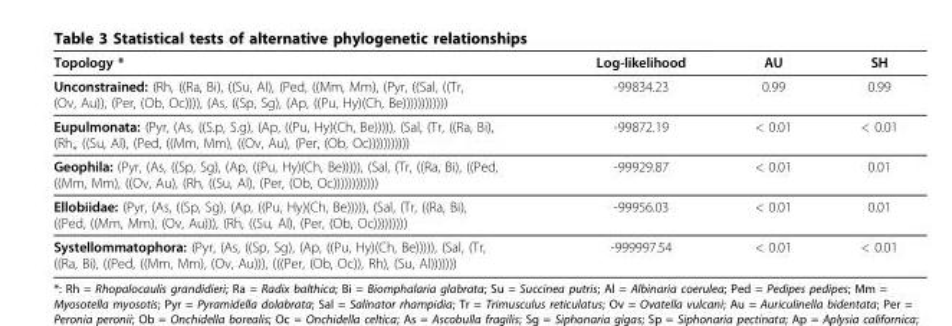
<table><thead><tr><td>Topology *</td><td>Log-likelihood</td><td>AU</td><td>SH</td></tr></thead><tbody><tr><td>Unconstrained: (Rh, ((Ra, Bi), ((Su, Al), (Ped, ((Mm, Mm), (Pyr, ((Sal, ((Tr, (Ov, Au)), (Per, (Ob, Oc)))), (As, ((Sp, Sg), (Ap, ((Pu, Hy)(Ch, Be))))))))))))</td><td>-99834.23</td><td>0.99</td><td>0.99</td></tr><tr><td>Eupulmonata: (Pyr, (As, ((S.p, S.g), (Ap, ((Pu, Hy)(Ch, Be))))), (Sal, (Tr, ((Ra, Bi), (Rh,, ((Su, Al), (Ped, ((Mm, Mm), ((Ov, Au), (Per, (Ob, Oc)))))))))))</td><td>-99872.19</td><td>&lt; 0.01</td><td>&lt; 0.01</td></tr><tr><td>Geophila: (Pyr, (As, ((Sp, Sg), (Ap, ((Pu, Hy)(Ch, Be))))), (Sal, (Tr, ((Ra, Bi), ((Ped, ((Mm, Mm), ((Ov, Au), (Rh, ((Su, Al), (Per, (Ob, Oc))))))))))))</td><td>-99929.87</td><td>&lt; 0.01</td><td>0.01</td></tr><tr><td>Ellobiidae: (Pyr, (As, ((Sp, Sg), (Ap, ((Pu, Hy)(Ch, Be))))), (Sal, (Tr, ((Ra, Bi), ((Ped, ((Mm, Mm), (Ov, Au))), (Rh, ((Su, Al), (Per, (Ob, Oc)))))))))</td><td>-99956.03</td><td>&lt; 0.01</td><td>0.01</td></tr><tr><td>Systellommatophora: (Pyr, (As, ((Sp, Sg), (Ap, ((Pu, Hy)(Ch, Be))))), (Sal, (Tr, ((Ra, Bi), ((Ped, ((Mm, Mm), (Ov, Au))), (((Per, (Ob, Oc)), Rh), (Su, Al)))))))</td><td>-999997.54</td><td>&lt; 0.01</td><td>&lt; 0.01</td></tr></tbody></table>